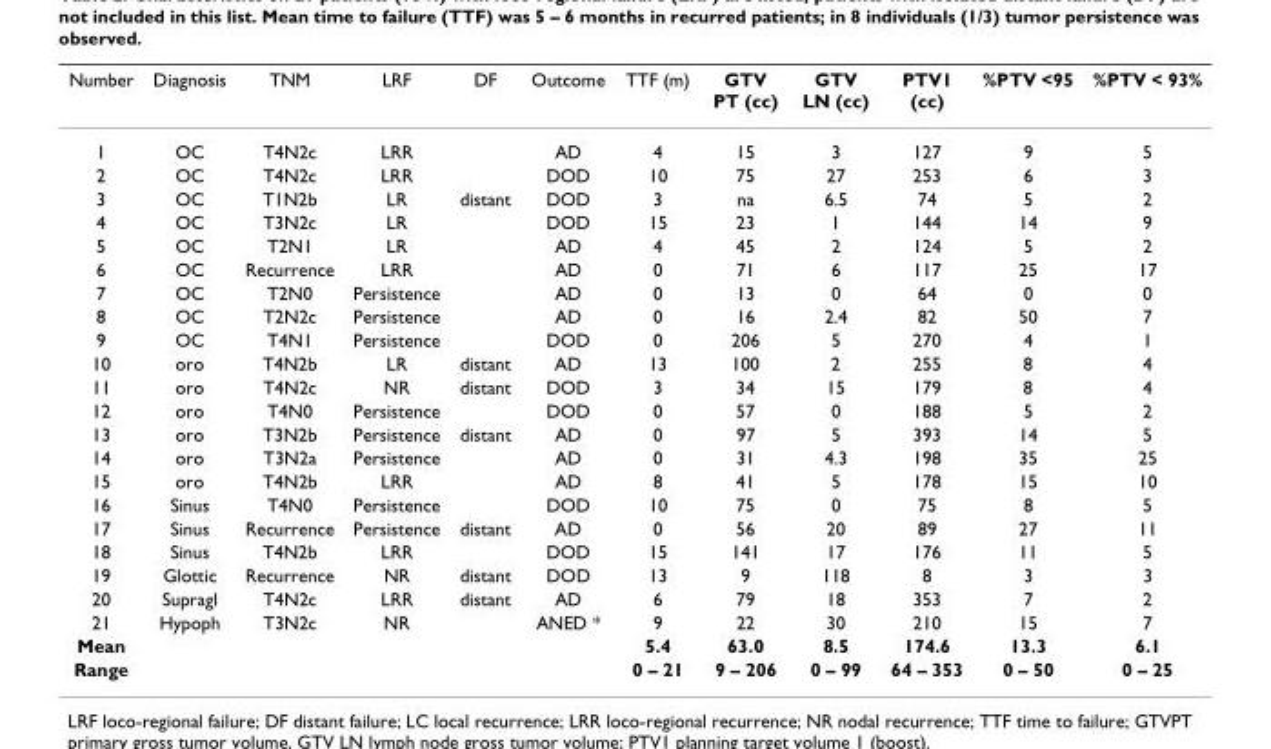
<table><thead><tr><td>Number</td><td>Diagnosis</td><td>TNM</td><td>LRF</td><td>DF</td><td>Outcome</td><td>TTF (m)</td><td>GTV PT (cc)</td><td>GTV LN (cc)</td><td>PTV1 (cc)</td><td>%PTV &lt;95</td><td>%PTV &lt; 93%</td></tr></thead><tbody><tr><td>1</td><td>OC</td><td>T4N2c</td><td>LRR</td><td></td><td>AD</td><td>4</td><td>15</td><td>3</td><td>127</td><td>9</td><td>5</td></tr><tr><td>2</td><td>OC</td><td>T4N2c</td><td>LRR</td><td></td><td>DOD</td><td>10</td><td>75</td><td>27</td><td>253</td><td>6</td><td>3</td></tr><tr><td>3</td><td>OC</td><td>T1N2b</td><td>LR</td><td>distant</td><td>DOD</td><td>3</td><td>na</td><td>6.5</td><td>74</td><td>5</td><td>2</td></tr><tr><td>4</td><td>OC</td><td>T3N2c</td><td>LR</td><td></td><td>DOD</td><td>15</td><td>23</td><td>1</td><td>144</td><td>14</td><td>9</td></tr><tr><td>5</td><td>OC</td><td>T2N1</td><td>LR</td><td></td><td>AD</td><td>4</td><td>45</td><td>2</td><td>124</td><td>5</td><td>2</td></tr><tr><td>6</td><td>OC</td><td>Recurrence</td><td>LRR</td><td></td><td>AD</td><td>0</td><td>71</td><td>6</td><td>117</td><td>25</td><td>17</td></tr><tr><td>7</td><td>OC</td><td>T2N0</td><td>Persistence</td><td></td><td>AD</td><td>0</td><td>13</td><td>0</td><td>64</td><td>0</td><td>0</td></tr><tr><td>8</td><td>OC</td><td>T2N2c</td><td>Persistence</td><td></td><td>AD</td><td>0</td><td>16</td><td>2.4</td><td>82</td><td>50</td><td>7</td></tr><tr><td>9</td><td>OC</td><td>T4N1</td><td>Persistence</td><td></td><td>DOD</td><td>0</td><td>206</td><td>5</td><td>270</td><td>4</td><td>1</td></tr><tr><td>10</td><td>oro</td><td>T4N2b</td><td>LR</td><td>distant</td><td>AD</td><td>13</td><td>100</td><td>2</td><td>255</td><td>8</td><td>4</td></tr><tr><td>11</td><td>oro</td><td>T4N2c</td><td>NR</td><td>distant</td><td>DOD</td><td>3</td><td>34</td><td>15</td><td>179</td><td>8</td><td>4</td></tr><tr><td>12</td><td>oro</td><td>T4N0</td><td>Persistence</td><td></td><td>DOD</td><td>0</td><td>57</td><td>0</td><td>188</td><td>5</td><td>2</td></tr><tr><td>13</td><td>oro</td><td>T3N2b</td><td>Persistence</td><td>distant</td><td>AD</td><td>0</td><td>97</td><td>5</td><td>393</td><td>14</td><td>5</td></tr><tr><td>14</td><td>oro</td><td>T3N2a</td><td>Persistence</td><td></td><td>AD</td><td>0</td><td>31</td><td>4.3</td><td>198</td><td>35</td><td>25</td></tr><tr><td>15</td><td>oro</td><td>T4N2b</td><td>LRR</td><td></td><td>AD</td><td>8</td><td>41</td><td>5</td><td>178</td><td>15</td><td>10</td></tr><tr><td>16</td><td>Sinus</td><td>T4N0</td><td>Persistence</td><td></td><td>DOD</td><td>10</td><td>75</td><td>0</td><td>75</td><td>8</td><td>5</td></tr><tr><td>17</td><td>Sinus</td><td>Recurrence</td><td>Persistence</td><td>distant</td><td>AD</td><td>0</td><td>56</td><td>20</td><td>89</td><td>27</td><td>11</td></tr><tr><td>18</td><td>Sinus</td><td>T4N2b</td><td>LRR</td><td></td><td>DOD</td><td>15</td><td>141</td><td>17</td><td>176</td><td>11</td><td>5</td></tr><tr><td>19</td><td>Glottic</td><td>Recurrence</td><td>NR</td><td>distant</td><td>DOD</td><td>13</td><td>9</td><td>118</td><td>8</td><td>3</td><td>3</td></tr><tr><td>20</td><td>Supragl</td><td>T4N2c</td><td>LRR</td><td>distant</td><td>AD</td><td>6</td><td>79</td><td>18</td><td>353</td><td>7</td><td>2</td></tr><tr><td>21</td><td>Hypoph</td><td>T3N2c</td><td>NR</td><td></td><td>ANED *</td><td>9</td><td>22</td><td>30</td><td>210</td><td>15</td><td>7</td></tr><tr><td>Mean</td><td></td><td></td><td></td><td></td><td></td><td>5.4</td><td>63.0</td><td>8.5</td><td>174.6</td><td>13.3</td><td>6.1</td></tr><tr><td>Range</td><td></td><td></td><td></td><td></td><td></td><td>0 – 21</td><td>9 – 206</td><td>0 – 99</td><td>64 – 353</td><td>0 – 50</td><td>0 – 25</td></tr></tbody></table>